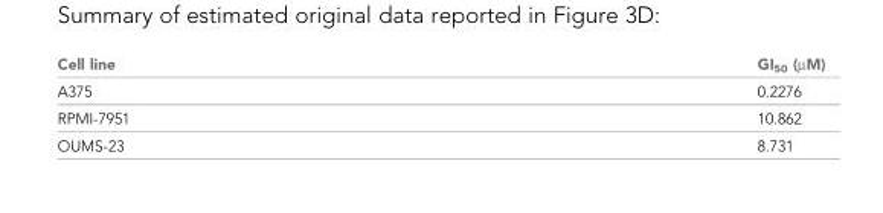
<table><thead><tr><td>Cell line</td><td>GI<sub>50</sub> (µM)</td></tr></thead><tbody><tr><td>A375</td><td>0.2276</td></tr><tr><td>RPMI-7951</td><td>10.862</td></tr><tr><td>OUMS-23</td><td>8.731</td></tr></tbody></table>